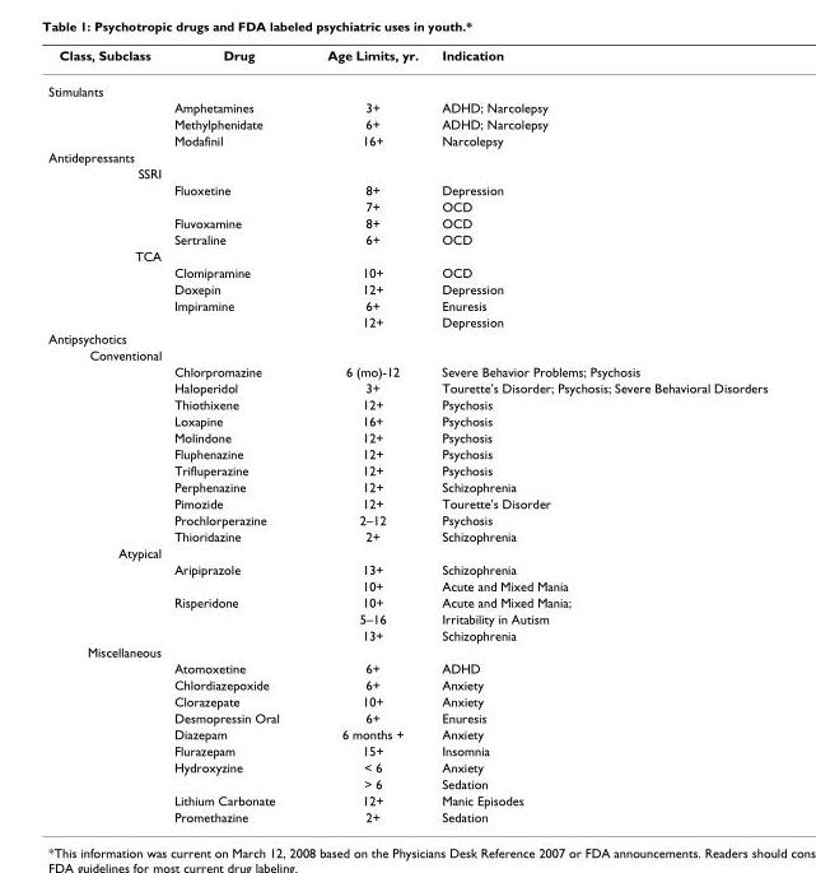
<table><thead><tr><td>Class, Subclass</td><td>Drug</td><td>Age Limits, yr.</td><td>Indication</td></tr></thead><tbody><tr><td colspan="4">Stimulants</td></tr><tr><td></td><td>Amphetamines</td><td>3+</td><td>ADHD; Narcolepsy</td></tr><tr><td></td><td>Methylphenidate</td><td>6+</td><td>ADHD; Narcolepsy</td></tr><tr><td></td><td>Modafinil</td><td>16+</td><td>Narcolepsy</td></tr><tr><td colspan="4">Antidepressants</td></tr><tr><td colspan="4">SSRI</td></tr><tr><td></td><td>Fluoxetine</td><td>8+</td><td>Depression</td></tr><tr><td></td><td></td><td>7+</td><td>OCD</td></tr><tr><td></td><td>Fluvoxamine</td><td>8+</td><td>OCD</td></tr><tr><td></td><td>Sertraline</td><td>6+</td><td>OCD</td></tr><tr><td colspan="4">TCA</td></tr><tr><td></td><td>Clomipramine</td><td>10+</td><td>OCD</td></tr><tr><td></td><td>Doxepin</td><td>12+</td><td>Depression</td></tr><tr><td></td><td>Impiramine</td><td>6+</td><td>Enuresis</td></tr><tr><td></td><td></td><td>12+</td><td>Depression</td></tr><tr><td colspan="4">Antipsychotics</td></tr><tr><td colspan="4">Conventional</td></tr><tr><td></td><td>Chlorpromazine</td><td>6 (mo)-12</td><td>Severe Behavior Problems; Psychosis</td></tr><tr><td></td><td>Haloperidol</td><td>3+</td><td>Tourette&#x27;s Disorder; Psychosis; Severe Behavioral Disorders</td></tr><tr><td></td><td>Thiothixene</td><td>12+</td><td>Psychosis</td></tr><tr><td></td><td>Loxapine</td><td>16+</td><td>Psychosis</td></tr><tr><td></td><td>Molindone</td><td>12+</td><td>Psychosis</td></tr><tr><td></td><td>Fluphenazine</td><td>12+</td><td>Psychosis</td></tr><tr><td></td><td>Trifluperazine</td><td>12+</td><td>Psychosis</td></tr><tr><td></td><td>Perphenazine</td><td>12+</td><td>Schizophrenia</td></tr><tr><td></td><td>Pimozide</td><td>12+</td><td>Tourette&#x27;s Disorder</td></tr><tr><td></td><td>Prochlorperazine</td><td>2–12</td><td>Psychosis</td></tr><tr><td></td><td>Thioridazine</td><td>2+</td><td>Schizophrenia</td></tr><tr><td colspan="4">Atypical</td></tr><tr><td></td><td>Aripiprazole</td><td>13+</td><td>Schizophrenia</td></tr><tr><td></td><td></td><td>10+</td><td>Acute and Mixed Mania</td></tr><tr><td></td><td>Risperidone</td><td>10+</td><td>Acute and Mixed Mania;</td></tr><tr><td></td><td></td><td>5–16</td><td>Irritability in Autism</td></tr><tr><td></td><td></td><td>13+</td><td>Schizophrenia</td></tr><tr><td colspan="4">Miscellaneous</td></tr><tr><td></td><td>Atomoxetine</td><td>6+</td><td>ADHD</td></tr><tr><td></td><td>Chlordiazepoxide</td><td>6+</td><td>Anxiety</td></tr><tr><td></td><td>Clorazepate</td><td>10+</td><td>Anxiety</td></tr><tr><td></td><td>Desmopressin Oral</td><td>6+</td><td>Enuresis</td></tr><tr><td></td><td>Diazepam</td><td>6 months +</td><td>Anxiety</td></tr><tr><td></td><td>Flurazepam</td><td>15+</td><td>Insomnia</td></tr><tr><td></td><td>Hydroxyzine</td><td>&lt; 6</td><td>Anxiety</td></tr><tr><td></td><td></td><td>&gt; 6</td><td>Sedation</td></tr><tr><td></td><td>Lithium Carbonate</td><td>12+</td><td>Manic Episodes</td></tr><tr><td></td><td>Promethazine</td><td>2+</td><td>Sedation</td></tr></tbody></table>